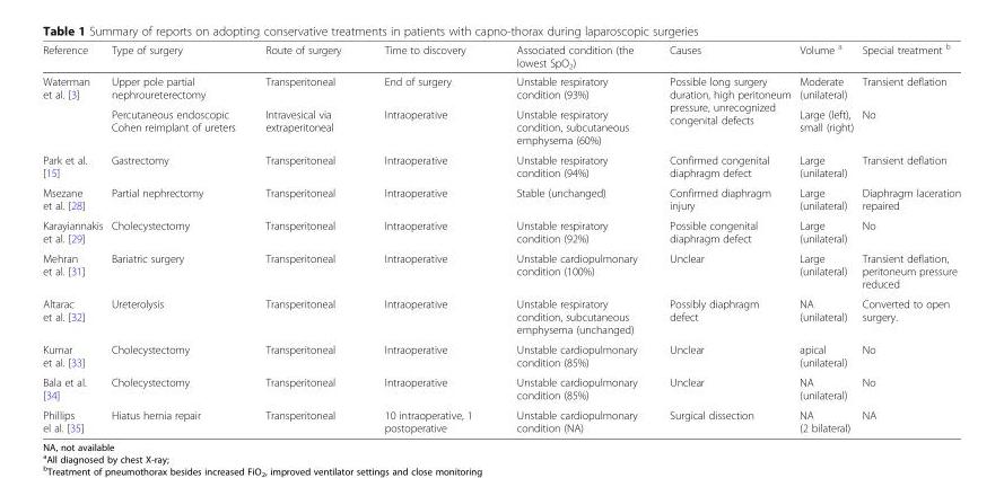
<table><thead><tr><td>Reference</td><td>Type of surgery</td><td>Route of surgery</td><td>Time to discovery</td><td>Associated condition (the lowest SpO<sub>2</sub>)</td><td>Causes</td><td>Volume <sup>a</sup></td><td>Special treatment <sup>b</sup></td></tr></thead><tbody><tr><td rowspan="2">Waterman et al. [3]</td><td>Upper pole partial nephroureterectomy</td><td>Transperitoneal</td><td>End of surgery</td><td>Unstable respiratory condition (93%)</td><td rowspan="2">Possible long surgery duration, high peritoneum pressure, unrecognized congenital defects</td><td>Moderate (unilateral)</td><td>Transient deflation</td></tr><tr><td>Percutaneous endoscopic Cohen reimplant of ureters</td><td>Intravesical via extraperitoneal</td><td>Intraoperative</td><td>Unstable respiratory condition, subcutaneous emphysema (60%)</td><td>Large (left), small (right)</td><td>No</td></tr><tr><td>Park et al. [15]</td><td>Gastrectomy</td><td>Transperitoneal</td><td>Intraoperative</td><td>Unstable respiratory condition (94%)</td><td>Confirmed congenital diaphragm defect</td><td>Large (unilateral)</td><td>Transient deflation</td></tr><tr><td>Msezane et al. [28]</td><td>Partial nephrectomy</td><td>Transperitoneal</td><td>Intraoperative</td><td>Stable (unchanged)</td><td>Confirmed diaphragm injury</td><td>Large (unilateral)</td><td>Diaphragm laceration repaired</td></tr><tr><td>Karayiannakis et al. [29]</td><td>Cholecystectomy</td><td>Transperitoneal</td><td>Intraoperative</td><td>Unstable respiratory condition (92%)</td><td>Possible congenital diaphragm defect</td><td>Large (unilateral)</td><td>No</td></tr><tr><td>Mehran et al. [31]</td><td>Bariatric surgery</td><td>Transperitoneal</td><td>Intraoperative</td><td>Unstable cardiopulmonary condition (100%)</td><td>Unclear</td><td>Large (unilateral)</td><td>Transient deflation, peritoneum pressure reduced</td></tr><tr><td>Altarac et al. [32]</td><td>Ureterolysis</td><td>Transperitoneal</td><td>Intraoperative</td><td>Unstable respiratory condition, subcutaneous emphysema (unchanged)</td><td>Possibly diaphragm defect</td><td>NA (unilateral)</td><td>Converted to open surgery.</td></tr><tr><td>Kumar et al. [33]</td><td>Cholecystectomy</td><td>Transperitoneal</td><td>Intraoperative</td><td>Unstable cardiopulmonary condition (85%)</td><td>Unclear</td><td>apical (unilateral)</td><td>No</td></tr><tr><td>Bala et al. [34]</td><td>Cholecystectomy</td><td>Transperitoneal</td><td>Intraoperative</td><td>Unstable cardiopulmonary condition (85%)</td><td>Unclear</td><td>NA (unilateral)</td><td>No</td></tr><tr><td>Phillips el al. [35]</td><td>Hiatus hernia repair</td><td>Transperitoneal</td><td>10 intraoperative, 1 postoperative</td><td>Unstable cardiopulmonary condition (NA)</td><td>Surgical dissection</td><td>NA (2 bilateral)</td><td>NA</td></tr></tbody></table>